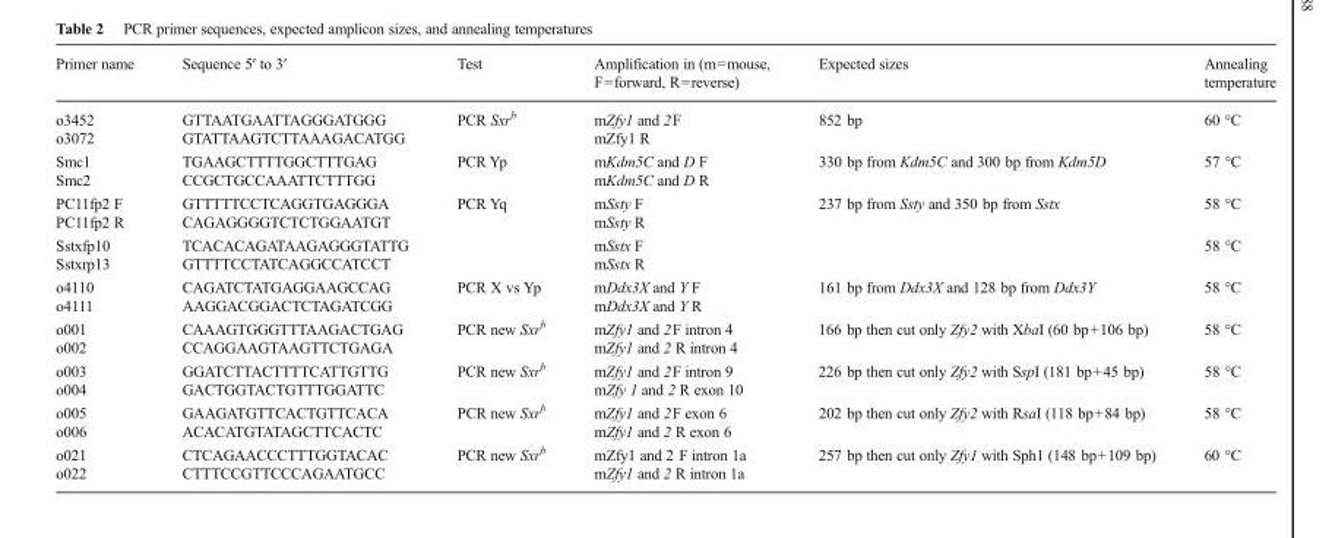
<table><thead><tr><td>Primer name</td><td>Sequence 5′ to 3′</td><td>Test</td><td>Amplification in (m=mouse, F=forward, R=reverse)</td><td>Expected sizes</td><td>Annealing temperature</td></tr></thead><tbody><tr><td>o3452</td><td>GTTAATGAATTAGGGATGGG</td><td rowspan="2">PCR Sxr<sup>b</sup></td><td>mZfy1 and 2F</td><td rowspan="2">852 bp</td><td rowspan="2">60 °C</td></tr><tr><td>o3072</td><td>GTATTAAGTCTTAAAGACATGG</td><td>mZfy1 R</td></tr><tr><td>Smc1</td><td>TGAAGCTTTTGGCTTTGAG</td><td rowspan="2">PCR Yp</td><td>mKdm5C and D F</td><td rowspan="2">330 bp from Kdm5C and 300 bp from Kdm5D</td><td rowspan="2">57 °C</td></tr><tr><td>Smc2</td><td>CCGCTGCCAAATTCTTTGG</td><td>mKdm5C and D R</td></tr><tr><td>PC11fp2 F</td><td>GTTTTTCCTCAGGTGAGGGA</td><td rowspan="4">PCR Yq</td><td>mSsty F</td><td rowspan="4">237 bp from Ssty and 350 bp from Sstx</td><td rowspan="2">58 °C</td></tr><tr><td>PC11fp2 R</td><td>CAGAGGGGTCTCTGGAATGT</td><td>mSsty R</td></tr><tr><td>Sstxfp10</td><td>TCACACAGATAAGAGGGTATTG</td><td>mSstx F</td><td rowspan="2">58 °C</td></tr><tr><td>Sstxrp13</td><td>GTTTTCCTATCAGGCCATCCT</td><td>mSstx R</td></tr><tr><td>o4110</td><td>CAGATCTATGAGGAAGCCAG</td><td rowspan="2">PCR X vs Yp</td><td>mDdx3X and Y F</td><td rowspan="2">161 bp from Ddx3X and 128 bp from Ddx3Y</td><td rowspan="2">58 °C</td></tr><tr><td>o4111</td><td>AAGGACGGACTCTAGATCGG</td><td>mDdx3X and Y R</td></tr><tr><td>o001</td><td>CAAAGTGGGTTTAAGACTGAG</td><td rowspan="2">PCR new Sxr<sup>b</sup></td><td>mZfy1 and 2F intron 4</td><td rowspan="2">166 bp then cut only Zfy2 with XbaI (60 bp+106 bp)</td><td rowspan="2">58 °C</td></tr><tr><td>o002</td><td>CCAGGAAGTAAGTTCTGAGA</td><td>mZfy1 and 2 R intron 4</td></tr><tr><td>o003</td><td>GGATCTTACTTTTCATTGTTG</td><td rowspan="2">PCR new Sxr<sup>b</sup></td><td>mZfy1 and 2F intron 9</td><td rowspan="2">226 bp then cut only Zfy2 with SspI (181 bp+45 bp)</td><td rowspan="2">58 °C</td></tr><tr><td>o004</td><td>GACTGGTACTGTTTGGATTC</td><td>mZfy 1 and 2 R exon 10</td></tr><tr><td>o005</td><td>GAAGATGTTCACTGTTCACA</td><td rowspan="2">PCR new Sxr<sup>b</sup></td><td>mZfy1 and 2F exon 6</td><td rowspan="2">202 bp then cut only Zfy2 with RsaI (118 bp+84 bp)</td><td rowspan="2">58 °C</td></tr><tr><td>o006</td><td>ACACATGTATAGCTTCACTC</td><td>mZfy1 and 2 R exon 6</td></tr><tr><td>o021</td><td>CTCAGAACCCTTTGGTACAC</td><td rowspan="2">PCR new Sxr<sup>b</sup></td><td>mZfy1 and 2 F intron 1a</td><td rowspan="2">257 bp then cut only Zfy1 with Sph1 (148 bp+109 bp)</td><td rowspan="2">60 °C</td></tr><tr><td>o022</td><td>CTTTCCGTTCCCAGAATGCC</td><td>mZfy1 and 2 R intron 1a</td></tr></tbody></table>